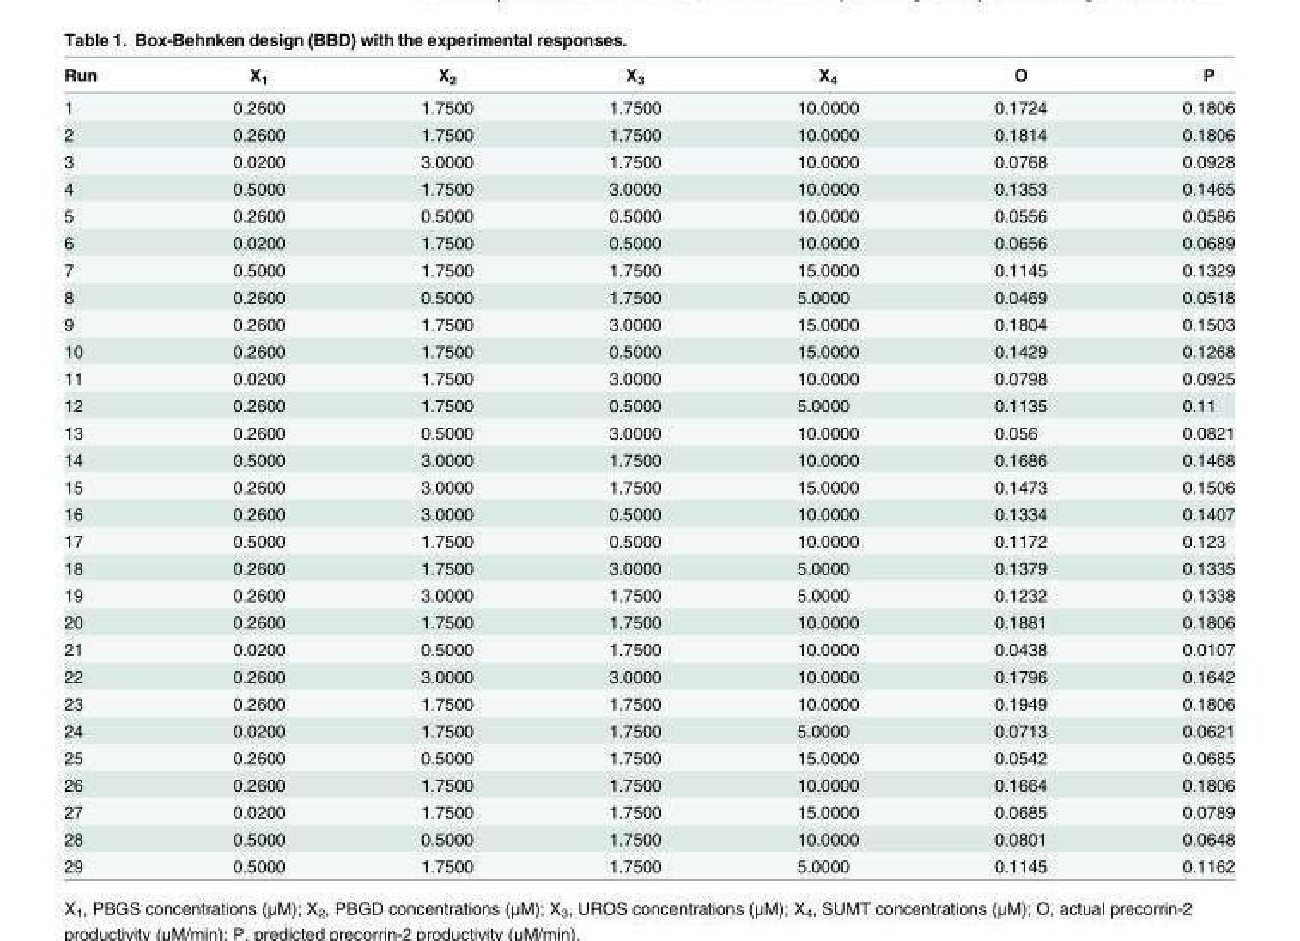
<table><thead><tr><td>Run</td><td>X<sub>1</sub></td><td>X<sub>2</sub></td><td>X<sub>3</sub></td><td>X<sub>4</sub></td><td>O</td><td>P</td></tr></thead><tbody><tr><td>1</td><td>0.2600</td><td>1.7500</td><td>1.7500</td><td>10.0000</td><td>0.1724</td><td>0.1806</td></tr><tr><td>2</td><td>0.2600</td><td>1.7500</td><td>1.7500</td><td>10.0000</td><td>0.1814</td><td>0.1806</td></tr><tr><td>3</td><td>0.0200</td><td>3.0000</td><td>1.7500</td><td>10.0000</td><td>0.0768</td><td>0.0928</td></tr><tr><td>4</td><td>0.5000</td><td>1.7500</td><td>3.0000</td><td>10.0000</td><td>0.1353</td><td>0.1465</td></tr><tr><td>5</td><td>0.2600</td><td>0.5000</td><td>0.5000</td><td>10.0000</td><td>0.0556</td><td>0.0586</td></tr><tr><td>6</td><td>0.0200</td><td>1.7500</td><td>0.5000</td><td>10.0000</td><td>0.0656</td><td>0.0689</td></tr><tr><td>7</td><td>0.5000</td><td>1.7500</td><td>1.7500</td><td>15.0000</td><td>0.1145</td><td>0.1329</td></tr><tr><td>8</td><td>0.2600</td><td>0.5000</td><td>1.7500</td><td>5.0000</td><td>0.0469</td><td>0.0518</td></tr><tr><td>9</td><td>0.2600</td><td>1.7500</td><td>3.0000</td><td>15.0000</td><td>0.1804</td><td>0.1503</td></tr><tr><td>10</td><td>0.2600</td><td>1.7500</td><td>0.5000</td><td>15.0000</td><td>0.1429</td><td>0.1268</td></tr><tr><td>11</td><td>0.0200</td><td>1.7500</td><td>3.0000</td><td>10.0000</td><td>0.0798</td><td>0.0925</td></tr><tr><td>12</td><td>0.2600</td><td>1.7500</td><td>0.5000</td><td>5.0000</td><td>0.1135</td><td>0.11</td></tr><tr><td>13</td><td>0.2600</td><td>0.5000</td><td>3.0000</td><td>10.0000</td><td>0.056</td><td>0.0821</td></tr><tr><td>14</td><td>0.5000</td><td>3.0000</td><td>1.7500</td><td>10.0000</td><td>0.1686</td><td>0.1468</td></tr><tr><td>15</td><td>0.2600</td><td>3.0000</td><td>1.7500</td><td>15.0000</td><td>0.1473</td><td>0.1506</td></tr><tr><td>16</td><td>0.2600</td><td>3.0000</td><td>0.5000</td><td>10.0000</td><td>0.1334</td><td>0.1407</td></tr><tr><td>17</td><td>0.5000</td><td>1.7500</td><td>0.5000</td><td>10.0000</td><td>0.1172</td><td>0.123</td></tr><tr><td>18</td><td>0.2600</td><td>1.7500</td><td>3.0000</td><td>5.0000</td><td>0.1379</td><td>0.1335</td></tr><tr><td>19</td><td>0.2600</td><td>3.0000</td><td>1.7500</td><td>5.0000</td><td>0.1232</td><td>0.1338</td></tr><tr><td>20</td><td>0.2600</td><td>1.7500</td><td>1.7500</td><td>10.0000</td><td>0.1881</td><td>0.1806</td></tr><tr><td>21</td><td>0.0200</td><td>0.5000</td><td>1.7500</td><td>10.0000</td><td>0.0438</td><td>0.0107</td></tr><tr><td>22</td><td>0.2600</td><td>3.0000</td><td>3.0000</td><td>10.0000</td><td>0.1796</td><td>0.1642</td></tr><tr><td>23</td><td>0.2600</td><td>1.7500</td><td>1.7500</td><td>10.0000</td><td>0.1949</td><td>0.1806</td></tr><tr><td>24</td><td>0.0200</td><td>1.7500</td><td>1.7500</td><td>5.0000</td><td>0.0713</td><td>0.0621</td></tr><tr><td>25</td><td>0.2600</td><td>0.5000</td><td>1.7500</td><td>15.0000</td><td>0.0542</td><td>0.0685</td></tr><tr><td>26</td><td>0.2600</td><td>1.7500</td><td>1.7500</td><td>10.0000</td><td>0.1664</td><td>0.1806</td></tr><tr><td>27</td><td>0.0200</td><td>1.7500</td><td>1.7500</td><td>15.0000</td><td>0.0685</td><td>0.0789</td></tr><tr><td>28</td><td>0.5000</td><td>0.5000</td><td>1.7500</td><td>10.0000</td><td>0.0801</td><td>0.0648</td></tr><tr><td>29</td><td>0.5000</td><td>1.7500</td><td>1.7500</td><td>5.0000</td><td>0.1145</td><td>0.1162</td></tr></tbody></table>